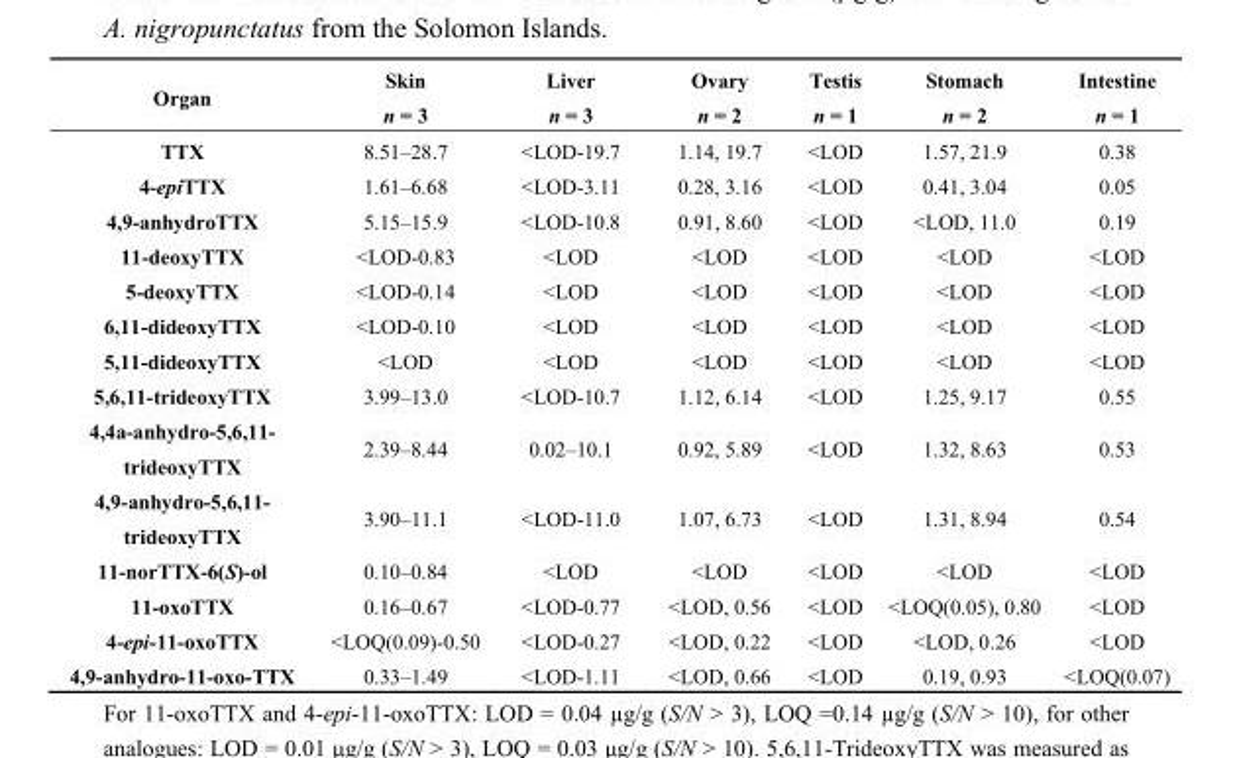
<table><thead><tr><td rowspan="2">Organ</td><td rowspan="2">Skin n = 3</td><td rowspan="2">Liver n = 3</td><td rowspan="2">Ovary n = 2</td><td rowspan="2">Testis n = 1</td><td rowspan="2">Stomach n = 2</td><td rowspan="2">Intestine n = 1</td></tr><tr></tr></thead><tbody><tr><td>TTX</td><td>8.51–28.7</td><td>&lt;LOD-19.7</td><td>1.14, 19.7</td><td>&lt;LOD</td><td>1.57, 21.9</td><td>0.38</td></tr><tr><td>4-epiTTX</td><td>1.61–6.68</td><td>&lt;LOD-3.11</td><td>0.28, 3.16</td><td>&lt;LOD</td><td>0.41, 3.04</td><td>0.05</td></tr><tr><td>4,9-anhydroTTX</td><td>5.15–15.9</td><td>&lt;LOD-10.8</td><td>0.91, 8.60</td><td>&lt;LOD</td><td>&lt;LOD, 11.0</td><td>0.19</td></tr><tr><td>11-deoxyTTX</td><td>&lt;LOD-0.83</td><td>&lt;LOD</td><td>&lt;LOD</td><td>&lt;LOD</td><td>&lt;LOD</td><td>&lt;LOD</td></tr><tr><td>5-deoxyTTX</td><td>&lt;LOD-0.14</td><td>&lt;LOD</td><td>&lt;LOD</td><td>&lt;LOD</td><td>&lt;LOD</td><td>&lt;LOD</td></tr><tr><td>6,11-dideoxyTTX</td><td>&lt;LOD-0.10</td><td>&lt;LOD</td><td>&lt;LOD</td><td>&lt;LOD</td><td>&lt;LOD</td><td>&lt;LOD</td></tr><tr><td>5,11-dideoxyTTX</td><td>&lt;LOD</td><td>&lt;LOD</td><td>&lt;LOD</td><td>&lt;LOD</td><td>&lt;LOD</td><td>&lt;LOD</td></tr><tr><td>5,6,11-trideoxyTTX</td><td>3.99–13.0</td><td>&lt;LOD-10.7</td><td>1.12, 6.14</td><td>&lt;LOD</td><td>1.25, 9.17</td><td>0.55</td></tr><tr><td>4,4a-anhydro-5,6,11- trideoxyTTX</td><td>2.39–8.44</td><td>0.02–10.1</td><td>0.92, 5.89</td><td>&lt;LOD</td><td>1.32, 8.63</td><td>0.53</td></tr><tr><td>4,9-anhydro-5,6,11- trideoxyTTX</td><td>3.90–11.1</td><td>&lt;LOD-11.0</td><td>1.07, 6.73</td><td>&lt;LOD</td><td>1.31, 8.94</td><td>0.54</td></tr><tr><td>11-norTTX-6(S)-ol</td><td>0.10–0.84</td><td>&lt;LOD</td><td>&lt;LOD</td><td>&lt;LOD</td><td>&lt;LOD</td><td>&lt;LOD</td></tr><tr><td>11-oxoTTX</td><td>0.16–0.67</td><td>&lt;LOD-0.77</td><td>&lt;LOD, 0.56</td><td>&lt;LOD</td><td>&lt;LOQ(0.05), 0.80</td><td>&lt;LOD</td></tr><tr><td>4-epi-11-oxoTTX</td><td>&lt;LOQ(0.09)-0.50</td><td>&lt;LOD-0.27</td><td>&lt;LOD, 0.22</td><td>&lt;LOD</td><td>&lt;LOD, 0.26</td><td>&lt;LOD</td></tr><tr><td>4,9-anhydro-11-oxo-TTX</td><td>0.33–1.49</td><td>&lt;LOD-1.11</td><td>&lt;LOD, 0.66</td><td>&lt;LOD</td><td>0.19, 0.93</td><td>&lt;LOQ(0.07)</td></tr></tbody></table>